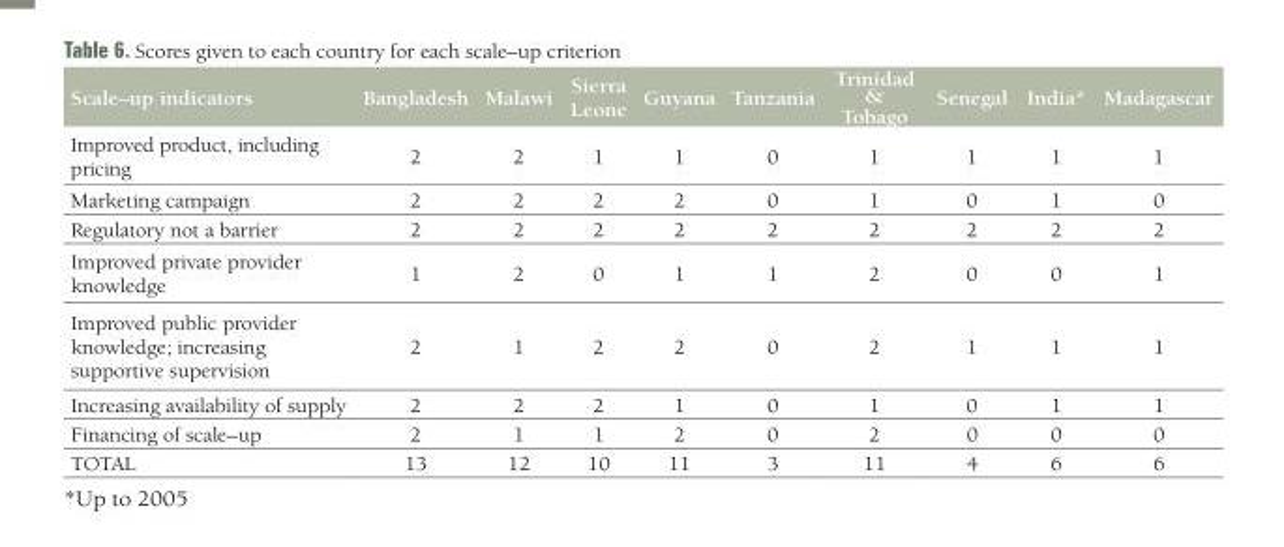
<table><thead><tr><td>Scale–up indicators</td><td>Bangladesh</td><td>Malawi</td><td>Sierra Leone</td><td>Guyana</td><td>Tanzania</td><td>Trinidad &amp; Tobago</td><td>Senegal</td><td>India*</td><td>Madagascar</td></tr></thead><tbody><tr><td>Improved product, including pricing</td><td>2</td><td>2</td><td>1</td><td>1</td><td>0</td><td>1</td><td>1</td><td>1</td><td>1</td></tr><tr><td>Marketing campaign</td><td>2</td><td>2</td><td>2</td><td>2</td><td>0</td><td>1</td><td>0</td><td>1</td><td>0</td></tr><tr><td>Regulatory not a barrier</td><td>2</td><td>2</td><td>2</td><td>2</td><td>2</td><td>2</td><td>2</td><td>2</td><td>2</td></tr><tr><td>Improved private provider knowledge</td><td>1</td><td>2</td><td>0</td><td>1</td><td>1</td><td>2</td><td>0</td><td>0</td><td>1</td></tr><tr><td>Improved public provider knowledge; increasing supportive supervision</td><td>2</td><td>1</td><td>2</td><td>2</td><td>0</td><td>2</td><td>1</td><td>1</td><td>1</td></tr><tr><td>Increasing availability of supply</td><td>2</td><td>2</td><td>2</td><td>1</td><td>0</td><td>1</td><td>0</td><td>1</td><td>1</td></tr><tr><td>Financing of scale–up</td><td>2</td><td>1</td><td>1</td><td>2</td><td>0</td><td>2</td><td>0</td><td>0</td><td>0</td></tr><tr><td>TOTAL</td><td>13</td><td>12</td><td>10</td><td>11</td><td>3</td><td>11</td><td>4</td><td>6</td><td>6</td></tr></tbody></table>